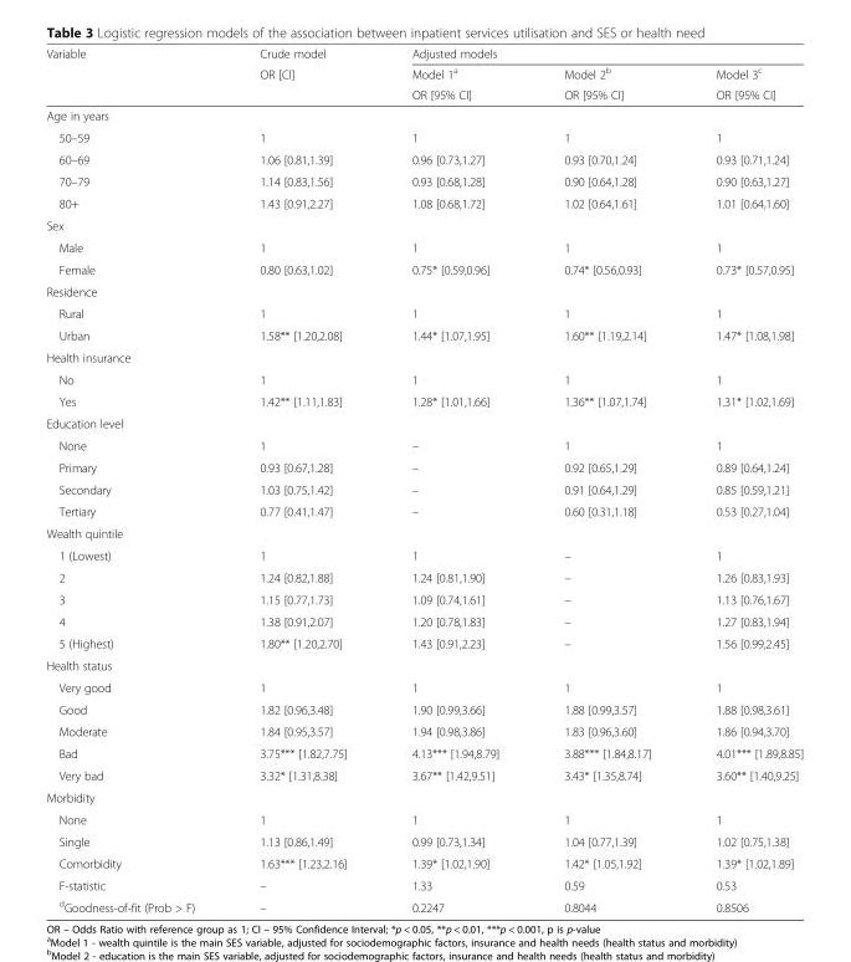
<table><thead><tr><td rowspan="3">Variable</td><td rowspan="3">Crude model OR [CI]</td><td colspan="3">Adjusted models</td></tr><tr><td rowspan="2">Model 1<sup>a</sup> OR [95% CI]</td><td rowspan="2">Model 2<sup>b</sup> OR [95% CI]</td><td rowspan="2">Model 3<sup>c</sup> OR [95% CI]</td></tr><tr></tr></thead><tbody><tr><td colspan="5">Age in years</td></tr><tr><td>50–59</td><td>1</td><td>1</td><td>1</td><td>1</td></tr><tr><td>60–69</td><td>1.06 [0.81,1.39]</td><td>0.96 [0.73,1.27]</td><td>0.93 [0.70,1.24]</td><td>0.93 [0.71,1.24]</td></tr><tr><td>70–79</td><td>1.14 [0.83,1.56]</td><td>0.93 [0.68,1.28]</td><td>0.90 [0.64,1.28]</td><td>0.90 [0.63,1.27]</td></tr><tr><td>80+</td><td>1.43 [0.91,2.27]</td><td>1.08 [0.68,1.72]</td><td>1.02 [0.64,1.61]</td><td>1.01 [0.64,1.60]</td></tr><tr><td colspan="5">Sex</td></tr><tr><td>Male</td><td>1</td><td>1</td><td>1</td><td>1</td></tr><tr><td>Female</td><td>0.80 [0.63,1.02]</td><td>0.75* [0.59,0.96]</td><td>0.74* [0.56,0.93]</td><td>0.73* [0.57,0.95]</td></tr><tr><td colspan="5">Residence</td></tr><tr><td>Rural</td><td>1</td><td>1</td><td>1</td><td>1</td></tr><tr><td>Urban</td><td>1.58** [1.20,2.08]</td><td>1.44* [1.07,1.95]</td><td>1.60** [1.19,2.14]</td><td>1.47* [1.08,1.98]</td></tr><tr><td colspan="5">Health insurance</td></tr><tr><td>No</td><td>1</td><td>1</td><td>1</td><td>1</td></tr><tr><td>Yes</td><td>1.42** [1.11,1.83]</td><td>1.28* [1.01,1.66]</td><td>1.36** [1.07,1.74]</td><td>1.31* [1.02,1.69]</td></tr><tr><td colspan="5">Education level</td></tr><tr><td>None</td><td>1</td><td>–</td><td>1</td><td>1</td></tr><tr><td>Primary</td><td>0.93 [0.67,1.28]</td><td>–</td><td>0.92 [0.65,1.29]</td><td>0.89 [0.64,1.24]</td></tr><tr><td>Secondary</td><td>1.03 [0.75,1.42]</td><td>–</td><td>0.91 [0.64,1.29]</td><td>0.85 [0.59,1.21]</td></tr><tr><td>Tertiary</td><td>0.77 [0.41,1.47]</td><td>–</td><td>0.60 [0.31,1.18]</td><td>0.53 [0.27,1.04]</td></tr><tr><td colspan="5">Wealth quintile</td></tr><tr><td>1 (Lowest)</td><td>1</td><td>1</td><td>–</td><td>1</td></tr><tr><td>2</td><td>1.24 [0.82,1.88]</td><td>1.24 [0.81,1.90]</td><td>–</td><td>1.26 [0.83,1.93]</td></tr><tr><td>3</td><td>1.15 [0.77,1.73]</td><td>1.09 [0.74,1.61]</td><td>–</td><td>1.13 [0.76,1.67]</td></tr><tr><td>4</td><td>1.38 [0.91,2.07]</td><td>1.20 [0.78,1.83]</td><td>–</td><td>1.27 [0.83,1.94]</td></tr><tr><td>5 (Highest)</td><td>1.80** [1.20,2.70]</td><td>1.43 [0.91,2.23]</td><td>–</td><td>1.56 [0.99,2.45]</td></tr><tr><td colspan="5">Health status</td></tr><tr><td>Very good</td><td>1</td><td>1</td><td>1</td><td>1</td></tr><tr><td>Good</td><td>1.82 [0.96,3.48]</td><td>1.90 [0.99,3.66]</td><td>1.88 [0.99,3.57]</td><td>1.88 [0.98,3.61]</td></tr><tr><td>Moderate</td><td>1.84 [0.95,3.57]</td><td>1.94 [0.98,3.86]</td><td>1.83 [0.96,3.60]</td><td>1.86 [0.94,3.70]</td></tr><tr><td>Bad</td><td>3.75*** [1.82,7.75]</td><td>4.13*** [1.94,8.79]</td><td>3.88*** [1.84,8.17]</td><td>4.01*** [1.89,8.85]</td></tr><tr><td>Very bad</td><td>3.32* [1.31,8.38]</td><td>3.67** [1.42,9.51]</td><td>3.43* [1.35,8.74]</td><td>3.60** [1.40,9.25]</td></tr><tr><td colspan="5">Morbidity</td></tr><tr><td>None</td><td>1</td><td>1</td><td>1</td><td>1</td></tr><tr><td>Single</td><td>1.13 [0.86,1.49]</td><td>0.99 [0.73,1.34]</td><td>1.04 [0.77,1.39]</td><td>1.02 [0.75,1.38]</td></tr><tr><td>Comorbidity</td><td>1.63*** [1.23,2.16]</td><td>1.39* [1.02,1.90]</td><td>1.42* [1.05,1.92]</td><td>1.39* [1.02,1.89]</td></tr><tr><td>F-statistic</td><td>–</td><td>1.33</td><td>0.59</td><td>0.53</td></tr><tr><td><sup>d</sup>Goodness-of-fit (Prob &gt; F)</td><td>–</td><td>0.2247</td><td>0.8044</td><td>0.8506</td></tr></tbody></table>